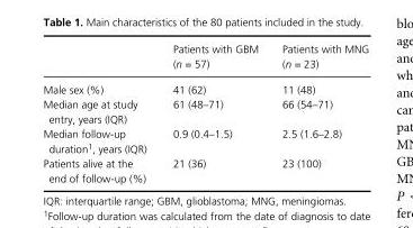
<table><thead><tr><td></td><td>Patients with GBM (n = 57)</td><td>Patients with MNG (n = 23)</td></tr></thead><tbody><tr><td>Male sex (%)</td><td>41 (62)</td><td>11 (48)</td></tr><tr><td>Median age at study entry, years (IQR)</td><td>61 (48–71)</td><td>66 (54–71)</td></tr><tr><td>Median follow- up duration1, years (IQR)</td><td>0.9 (0.4–1.5)</td><td>2.5 (1.6–2.8)</td></tr><tr><td>Patients alive at the end of follow- up (%)</td><td>21 (36)</td><td>23 (100)</td></tr></tbody></table>